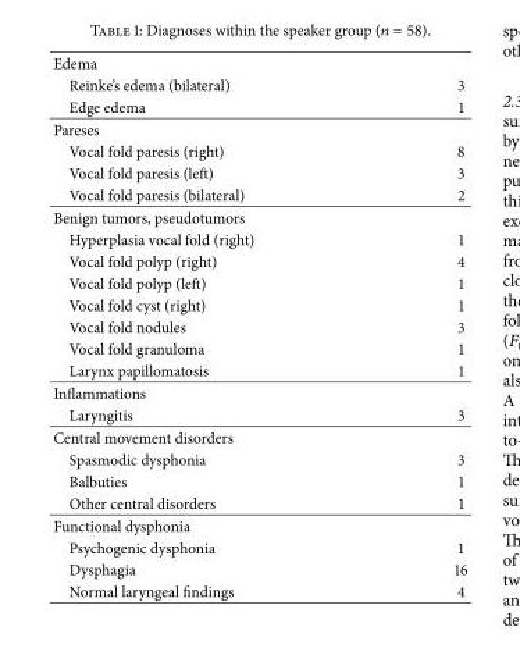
<table><tbody><tr><td colspan="2">Edema</td></tr><tr><td>Reinke’s edema (bilateral)</td><td>3</td></tr><tr><td>Edge edema</td><td>1</td></tr><tr><td colspan="2">Pareses</td></tr><tr><td>Vocal fold paresis (right)</td><td>8</td></tr><tr><td>Vocal fold paresis (left)</td><td>3</td></tr><tr><td>Vocal fold paresis (bilateral)</td><td>2</td></tr><tr><td colspan="2">Benign tumors, pseudotumors</td></tr><tr><td>Hyperplasia vocal fold (right)</td><td>1</td></tr><tr><td>Vocal fold polyp (right)</td><td>4</td></tr><tr><td>Vocal fold polyp (left)</td><td>1</td></tr><tr><td>Vocal fold cyst (right)</td><td>1</td></tr><tr><td>Vocal fold nodules</td><td>3</td></tr><tr><td>Vocal fold granuloma</td><td>1</td></tr><tr><td>Larynx papillomatosis</td><td>1</td></tr><tr><td colspan="2">Inflammations</td></tr><tr><td>Laryngitis</td><td>3</td></tr><tr><td colspan="2">Central movement disorders</td></tr><tr><td>Spasmodic dysphonia</td><td>3</td></tr><tr><td>Balbuties</td><td>1</td></tr><tr><td>Other central disorders</td><td>1</td></tr><tr><td colspan="2">Functional dysphonia</td></tr><tr><td>Psychogenic dysphonia</td><td>1</td></tr><tr><td>Dysphagia</td><td>16</td></tr><tr><td>Normal laryngeal findings</td><td>4</td></tr></tbody></table>